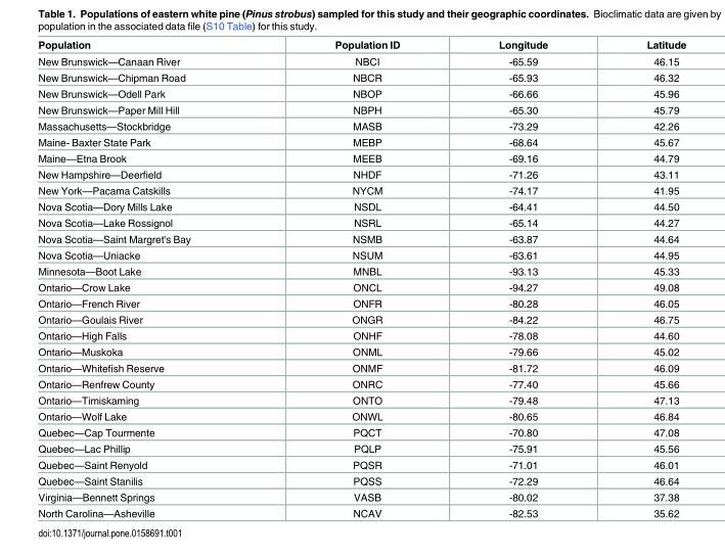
<table><thead><tr><td>Population</td><td>Population ID</td><td>Longitude</td><td>Latitude</td></tr></thead><tbody><tr><td>New Brunswick—Canaan River</td><td>NBCI</td><td>-65.59</td><td>46.15</td></tr><tr><td>New Brunswick—Chipman Road</td><td>NBCR</td><td>-65.93</td><td>46.32</td></tr><tr><td>New Brunswick—Odell Park</td><td>NBOP</td><td>-66.66</td><td>45.96</td></tr><tr><td>New Brunswick—Paper Mill Hill</td><td>NBPH</td><td>-65.30</td><td>45.79</td></tr><tr><td>Massachusetts—Stockbridge</td><td>MASB</td><td>-73.29</td><td>42.26</td></tr><tr><td>Maine- Baxter State Park</td><td>MEBP</td><td>-68.64</td><td>45.67</td></tr><tr><td>Maine—Etna Brook</td><td>MEEB</td><td>-69.16</td><td>44.79</td></tr><tr><td>New Hampshire—Deerfield</td><td>NHDF</td><td>-71.26</td><td>43.11</td></tr><tr><td>New York—Pacama Catskills</td><td>NYCM</td><td>-74.17</td><td>41.95</td></tr><tr><td>Nova Scotia—Dory Mills Lake</td><td>NSDL</td><td>-64.41</td><td>44.50</td></tr><tr><td>Nova Scotia—Lake Rossignol</td><td>NSRL</td><td>-65.14</td><td>44.27</td></tr><tr><td>Nova Scotia—Saint Margret&#x27;s Bay</td><td>NSMB</td><td>-63.87</td><td>44.64</td></tr><tr><td>Nova Scotia—Uniacke</td><td>NSUM</td><td>-63.61</td><td>44.95</td></tr><tr><td>Minnesota—Boot Lake</td><td>MNBL</td><td>-93.13</td><td>45.33</td></tr><tr><td>Ontario—Crow Lake</td><td>ONCL</td><td>-94.27</td><td>49.08</td></tr><tr><td>Ontario—French River</td><td>ONFR</td><td>-80.28</td><td>46.05</td></tr><tr><td>Ontario—Goulais River</td><td>ONGR</td><td>-84.22</td><td>46.75</td></tr><tr><td>Ontario—High Falls</td><td>ONHF</td><td>-78.08</td><td>44.60</td></tr><tr><td>Ontario—Muskoka</td><td>ONML</td><td>-79.66</td><td>45.02</td></tr><tr><td>Ontario—Whitefish Reserve</td><td>ONMF</td><td>-81.72</td><td>46.09</td></tr><tr><td>Ontario—Renfrew County</td><td>ONRC</td><td>-77.40</td><td>45.66</td></tr><tr><td>Ontario—Timiskaming</td><td>ONTO</td><td>-79.48</td><td>47.13</td></tr><tr><td>Ontario—Wolf Lake</td><td>ONWL</td><td>-80.65</td><td>46.84</td></tr><tr><td>Quebec—Cap Tourmente</td><td>PQCT</td><td>-70.80</td><td>47.08</td></tr><tr><td>Quebec—Lac Phillip</td><td>PQLP</td><td>-75.91</td><td>45.56</td></tr><tr><td>Quebec—Saint Renyold</td><td>PQSR</td><td>-71.01</td><td>46.01</td></tr><tr><td>Quebec—Saint Stanilis</td><td>PQSS</td><td>-72.29</td><td>46.64</td></tr><tr><td>Virginia—Bennett Springs</td><td>VASB</td><td>-80.02</td><td>37.38</td></tr><tr><td>North Carolina—Asheville</td><td>NCAV</td><td>-82.53</td><td>35.62</td></tr></tbody></table>